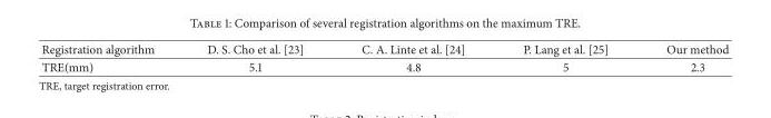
<table><thead><tr><td>Registration algorithm</td><td>D. S. Cho et al. [23]</td><td>C. A. Linte et al. [24]</td><td>P. Lang et al. [25]</td><td>Our method</td></tr></thead><tbody><tr><td>TRE(mm)</td><td>5.1</td><td>4.8</td><td>5</td><td>2.3</td></tr></tbody></table>